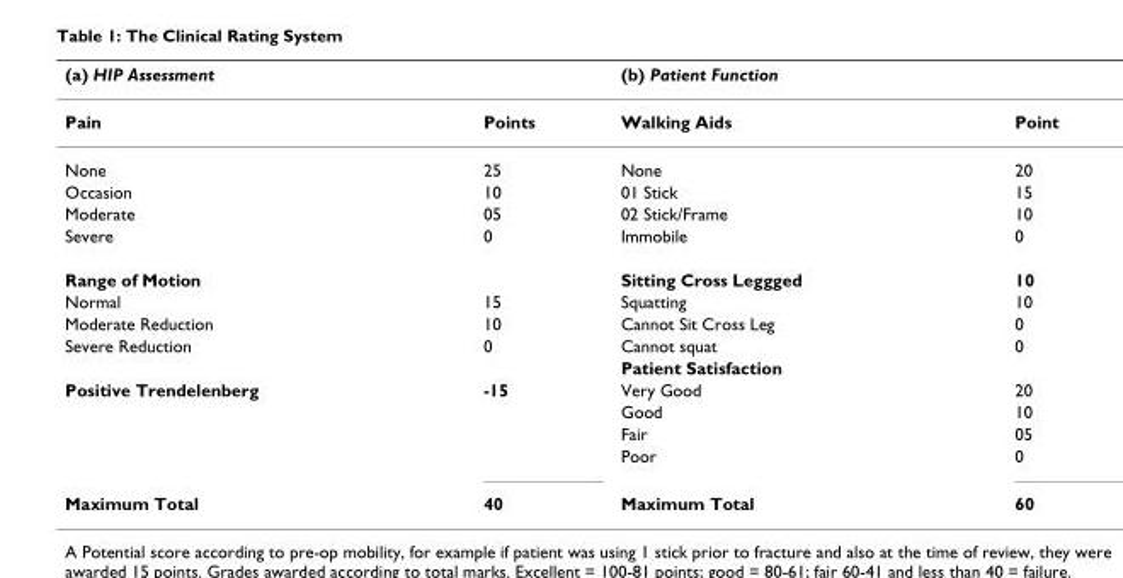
<table><thead><tr><td colspan="2">(a) HIP Assessment</td><td colspan="2">(b) Patient Function</td></tr><tr><td>Pain</td><td>Points</td><td>Walking Aids</td><td>Point</td></tr></thead><tbody><tr><td>None</td><td>25</td><td>None</td><td>20</td></tr><tr><td>Occasion</td><td>10</td><td>01 Stick</td><td>15</td></tr><tr><td>Moderate</td><td>05</td><td>02 Stick/Frame</td><td>10</td></tr><tr><td>Severe</td><td>0</td><td>Immobile</td><td>0</td></tr><tr><td>Range of Motion</td><td></td><td>Sitting Cross Leggged</td><td>10</td></tr><tr><td>Normal</td><td>15</td><td>Squatting</td><td>10</td></tr><tr><td>Moderate Reduction</td><td>10</td><td>Cannot Sit Cross Leg</td><td>0</td></tr><tr><td rowspan="2">Severe Reduction</td><td>0</td><td>Cannot squat</td><td>0</td></tr><tr><td></td><td>Patient Satisfaction</td><td></td></tr><tr><td rowspan="4">Positive Trendelenberg</td><td>-15</td><td>Very Good</td><td>20</td></tr><tr><td></td><td>Good</td><td>10</td></tr><tr><td></td><td>Fair</td><td>05</td></tr><tr><td></td><td>Poor</td><td>0</td></tr><tr><td>Maximum Total</td><td>40</td><td>Maximum Total</td><td>60</td></tr></tbody></table>